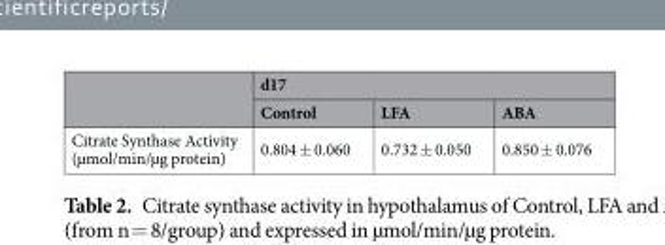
<table><thead><tr><td rowspan="2"></td><td colspan="3">d17</td></tr><tr><td>Control</td><td>LFA</td><td>ABA</td></tr></thead><tbody><tr><td>Citrate Synthase Activity (µmol/min/µg protein)</td><td>0.804 ± 0.060</td><td>0.732 ± 0.050</td><td>0.850 ± 0.076</td></tr></tbody></table>